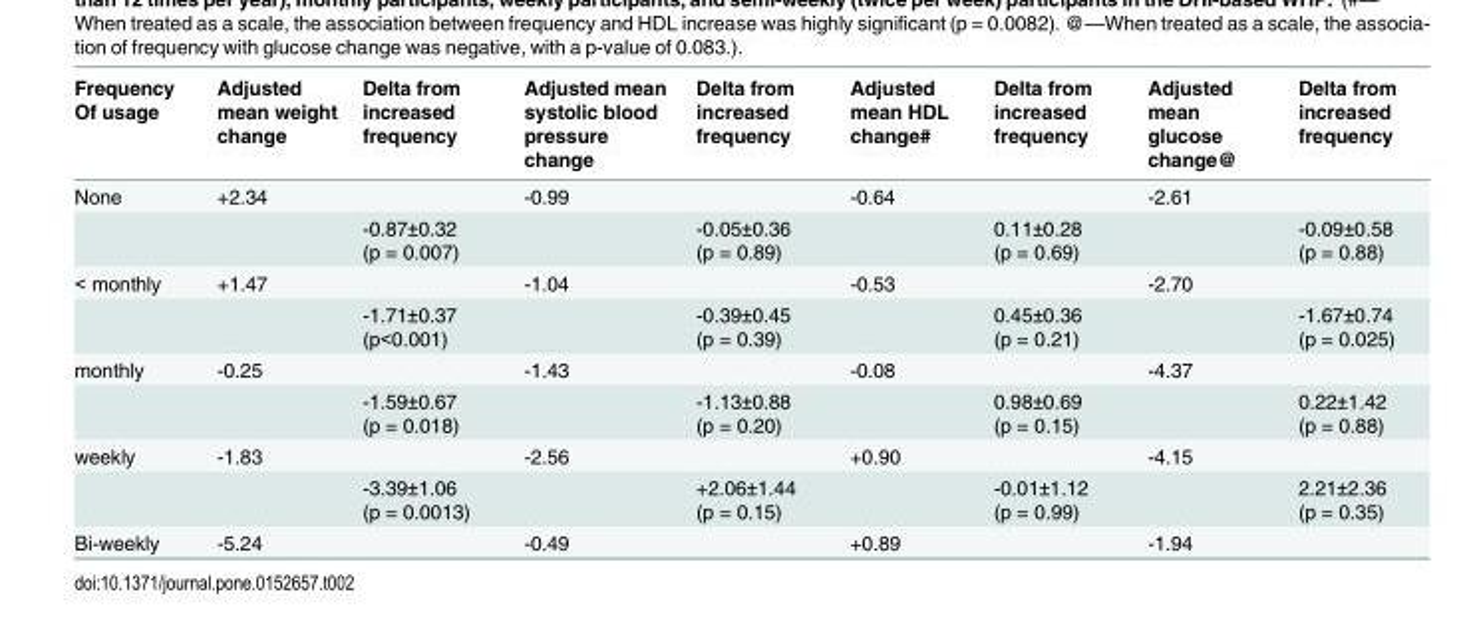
<table><thead><tr><td>Frequency Of usage</td><td>Adjusted mean weight change</td><td>Delta from increased frequency</td><td>Adjusted mean systolic blood pressure change</td><td>Delta from increased frequency</td><td>Adjusted mean HDL change#</td><td>Delta from increased frequency</td><td>Adjusted mean glucose change@</td><td>Delta from increased frequency</td></tr></thead><tbody><tr><td rowspan="2">None</td><td>+2.34</td><td></td><td>-0.99</td><td></td><td>-0.64</td><td></td><td>-2.61</td><td></td></tr><tr><td></td><td>-0.87±0.32 (p = 0.007)</td><td></td><td>-0.05±0.36 (p = 0.89)</td><td></td><td>0.11±0.28 (p = 0.69)</td><td></td><td>-0.09±0.58 (p = 0.88)</td></tr><tr><td rowspan="2">&lt; monthly</td><td>+1.47</td><td></td><td>-1.04</td><td></td><td>-0.53</td><td></td><td>-2.70</td><td></td></tr><tr><td></td><td>-1.71±0.37 (p&lt;0.001)</td><td></td><td>-0.39±0.45 (p = 0.39)</td><td></td><td>0.45±0.36 (p = 0.21)</td><td></td><td>-1.67±0.74 (p = 0.025)</td></tr><tr><td rowspan="2">monthly</td><td>-0.25</td><td></td><td>-1.43</td><td></td><td>-0.08</td><td></td><td>-4.37</td><td></td></tr><tr><td></td><td>-1.59±0.67 (p = 0.018)</td><td></td><td>-1.13±0.88 (p = 0.20)</td><td></td><td>0.98±0.69 (p = 0.15)</td><td></td><td>0.22±1.42 (p = 0.88)</td></tr><tr><td rowspan="2">weekly</td><td>-1.83</td><td></td><td>-2.56</td><td></td><td>+0.90</td><td></td><td>-4.15</td><td></td></tr><tr><td></td><td>-3.39±1.06 (p = 0.0013)</td><td></td><td>+2.06±1.44 (p = 0.15)</td><td></td><td>-0.01±1.12 (p = 0.99)</td><td></td><td>2.21±2.36 (p = 0.35)</td></tr><tr><td>Bi-weekly</td><td>-5.24</td><td></td><td>-0.49</td><td></td><td>+0.89</td><td></td><td>-1.94</td><td></td></tr></tbody></table>